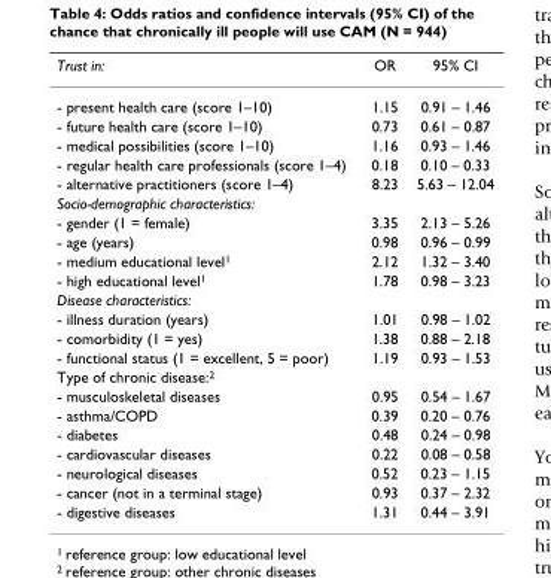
<table><thead><tr><td>Trust in:</td><td>OR</td><td>95% CI</td></tr></thead><tbody><tr><td>- present health care (score 1–10)</td><td>1.15</td><td>0.91 – 1.46</td></tr><tr><td>- future health care (score 1–10)</td><td>0.73</td><td>0.61 – 0.87</td></tr><tr><td>- medical possibilities (score 1–10)</td><td>1.16</td><td>0.93 – 1.46</td></tr><tr><td>- regular health care professionals (score 1–4)</td><td>0.18</td><td>0.10 – 0.33</td></tr><tr><td>- alternative practitioners (score 1–4)</td><td>8.23</td><td>5.63 – 12.04</td></tr><tr><td colspan="3">Socio-demographic characteristics:</td></tr><tr><td>- gender (1 = female)</td><td>3.35</td><td>2.13 – 5.26</td></tr><tr><td>- age (years)</td><td>0.98</td><td>0.96 – 0.99</td></tr><tr><td>- medium educational level1</td><td>2.12</td><td>1.32 – 3.40</td></tr><tr><td>- high educational level1</td><td>1.78</td><td>0.98 – 3.23</td></tr><tr><td colspan="3">Disease characteristics:</td></tr><tr><td>- illness duration (years)</td><td>1.01</td><td>0.98 – 1.02</td></tr><tr><td>- comorbidity (1 = yes)</td><td>1.38</td><td>0.88 – 2.18</td></tr><tr><td>- functional status (1 = excellent, 5 = poor)</td><td>1.19</td><td>0.93 – 1.53</td></tr><tr><td colspan="3">Type of chronic disease:2</td></tr><tr><td>- musculoskeletal diseases</td><td>0.95</td><td>0.54 – 1.67</td></tr><tr><td>- asthma/COPD</td><td>0.39</td><td>0.20 – 0.76</td></tr><tr><td>- diabetes</td><td>0.48</td><td>0.24 – 0.98</td></tr><tr><td>- cardiovascular diseases</td><td>0.22</td><td>0.08 – 0.58</td></tr><tr><td>- neurological diseases</td><td>0.52</td><td>0.23 – 1.15</td></tr><tr><td>- cancer (not in a terminal stage)</td><td>0.93</td><td>0.37 – 2.32</td></tr><tr><td>- digestive diseases</td><td>1.31</td><td>0.44 – 3.91</td></tr></tbody></table>